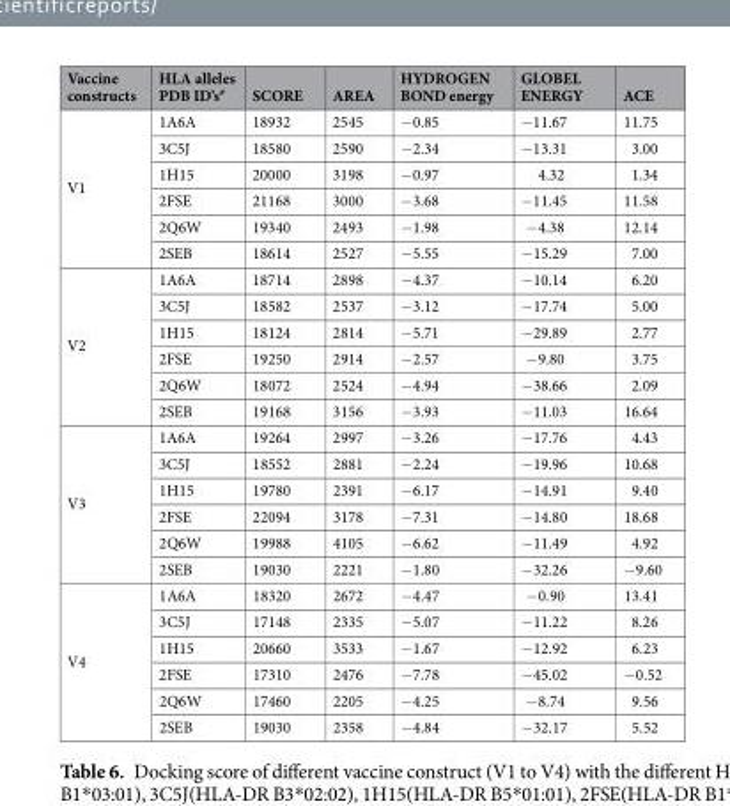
<table><thead><tr><td>Vaccine constructs</td><td>HLA alleles PDB ID’s<sup>#</sup></td><td>SCORE</td><td>AREA</td><td>HYDROGEN BOND energy</td><td>GLOBEL ENERGY</td><td>ACE</td></tr></thead><tbody><tr><td rowspan="6">V1</td><td>1A6A</td><td>18932</td><td>2545</td><td>−0.85</td><td>−11.67</td><td>11.75</td></tr><tr><td>3C5J</td><td>18580</td><td>2590</td><td>−2.34</td><td>−13.31</td><td>3.00</td></tr><tr><td>1H15</td><td>20000</td><td>3198</td><td>−0.97</td><td>4.32</td><td>1.34</td></tr><tr><td>2FSE</td><td>21168</td><td>3000</td><td>−3.68</td><td>−11.45</td><td>11.58</td></tr><tr><td>2Q6W</td><td>19340</td><td>2493</td><td>−1.98</td><td>−4.38</td><td>12.14</td></tr><tr><td>2SEB</td><td>18614</td><td>2527</td><td>−5.55</td><td>−15.29</td><td>7.00</td></tr><tr><td rowspan="6">V2</td><td>1A6A</td><td>18714</td><td>2898</td><td>−4.37</td><td>−10.14</td><td>6.20</td></tr><tr><td>3C5J</td><td>18582</td><td>2537</td><td>−3.12</td><td>−17.74</td><td>5.00</td></tr><tr><td>1H15</td><td>18124</td><td>2814</td><td>−5.71</td><td>−29.89</td><td>2.77</td></tr><tr><td>2FSE</td><td>19250</td><td>2914</td><td>−2.57</td><td>−9.80</td><td>3.75</td></tr><tr><td>2Q6W</td><td>18072</td><td>2524</td><td>−4.94</td><td>−38.66</td><td>2.09</td></tr><tr><td>2SEB</td><td>19168</td><td>3156</td><td>−3.93</td><td>−11.03</td><td>16.64</td></tr><tr><td rowspan="6">V3</td><td>1A6A</td><td>19264</td><td>2997</td><td>−3.26</td><td>−17.76</td><td>4.43</td></tr><tr><td>3C5J</td><td>18552</td><td>2881</td><td>−2.24</td><td>−19.96</td><td>10.68</td></tr><tr><td>1H15</td><td>19780</td><td>2391</td><td>−6.17</td><td>−14.91</td><td>9.40</td></tr><tr><td>2FSE</td><td>22094</td><td>3178</td><td>−7.31</td><td>−14.80</td><td>18.68</td></tr><tr><td>2Q6W</td><td>19988</td><td>4105</td><td>−6.62</td><td>−11.49</td><td>4.92</td></tr><tr><td>2SEB</td><td>19030</td><td>2221</td><td>−1.80</td><td>−32.26</td><td>−9.60</td></tr><tr><td rowspan="6">V4</td><td>1A6A</td><td>18320</td><td>2672</td><td>−4.47</td><td>−0.90</td><td>13.41</td></tr><tr><td>3C5J</td><td>17148</td><td>2335</td><td>−5.07</td><td>−11.22</td><td>8.26</td></tr><tr><td>1H15</td><td>20660</td><td>3533</td><td>−1.67</td><td>−12.92</td><td>6.23</td></tr><tr><td>2FSE</td><td>17310</td><td>2476</td><td>−7.78</td><td>−45.02</td><td>−0.52</td></tr><tr><td>2Q6W</td><td>17460</td><td>2205</td><td>−4.25</td><td>−8.74</td><td>9.56</td></tr><tr><td>2SEB</td><td>19030</td><td>2358</td><td>−4.84</td><td>−32.17</td><td>5.52</td></tr></tbody></table>